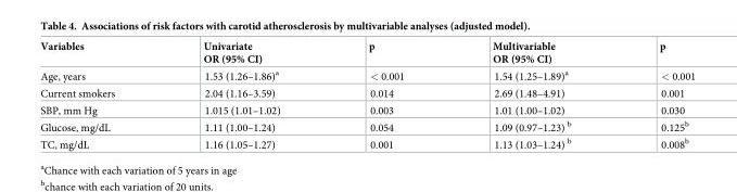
<table><thead><tr><td>Variables</td><td>Univariate OR (95% CI)</td><td>p</td><td>Multivariable OR (95% CI)</td><td>p</td></tr></thead><tbody><tr><td>Age, years</td><td>1.53 (1.26–1.86)<sup>a</sup></td><td>&lt; 0.001</td><td>1.54 (1.25–1.89)<sup>a</sup></td><td>&lt; 0.001</td></tr><tr><td>Current smokers</td><td>2.04 (1.16–3.59)</td><td>0.014</td><td>2.69 (1.48–4.91)</td><td>0.001</td></tr><tr><td>SBP, mm Hg</td><td>1.015 (1.01–1.02)</td><td>0.003</td><td>1.01 (1.00–1.02)</td><td>0.030</td></tr><tr><td>Glucose, mg/dL</td><td>1.11 (1.00–1.24)</td><td>0.054</td><td>1.09 (0.97–1.23) <sup>b</sup></td><td>0.125<sup>b</sup></td></tr><tr><td>TC, mg/dL</td><td>1.16 (1.05–1.27)</td><td>0.001</td><td>1.13 (1.03–1.24) <sup>b</sup></td><td>0.008<sup>b</sup></td></tr></tbody></table>